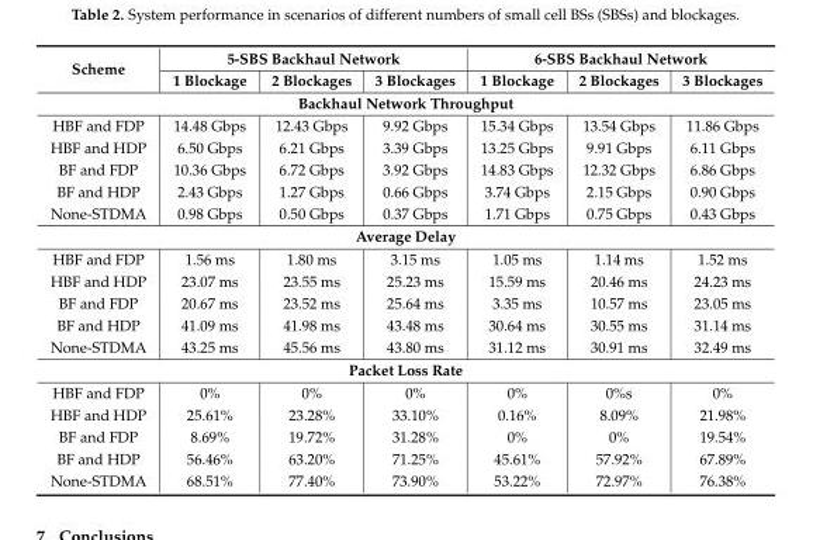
<table><thead><tr><td rowspan="2">Scheme</td><td colspan="3">5-SBS Backhaul Network</td><td colspan="3">6-SBS Backhaul Network</td></tr><tr><td>1 Blockage</td><td>2 Blockages</td><td>3 Blockages</td><td>1 Blockage</td><td>2 Blockages</td><td>3 Blockages</td></tr></thead><tbody><tr><td colspan="7">Backhaul Network Throughput</td></tr><tr><td>HBF and FDP</td><td>14.48 Gbps</td><td>12.43 Gbps</td><td>9.92 Gbps</td><td>15.34 Gbps</td><td>13.54 Gbps</td><td>11.86 Gbps</td></tr><tr><td>HBF and HDP</td><td>6.50 Gbps</td><td>6.21 Gbps</td><td>3.39 Gbps</td><td>13.25 Gbps</td><td>9.91 Gbps</td><td>6.11 Gbps</td></tr><tr><td>BF and FDP</td><td>10.36 Gbps</td><td>6.72 Gbps</td><td>3.92 Gbps</td><td>14.83 Gbps</td><td>12.32 Gbps</td><td>6.86 Gbps</td></tr><tr><td>BF and HDP</td><td>2.43 Gbps</td><td>1.27 Gbps</td><td>0.66 Gbps</td><td>3.74 Gbps</td><td>2.15 Gbps</td><td>0.90 Gbps</td></tr><tr><td>None-STDMA</td><td>0.98 Gbps</td><td>0.50 Gbps</td><td>0.37 Gbps</td><td>1.71 Gbps</td><td>0.75 Gbps</td><td>0.43 Gbps</td></tr><tr><td colspan="7">Average Delay</td></tr><tr><td>HBF and FDP</td><td>1.56 ms</td><td>1.80 ms</td><td>3.15 ms</td><td>1.05 ms</td><td>1.14 ms</td><td>1.52 ms</td></tr><tr><td>HBF and HDP</td><td>23.07 ms</td><td>23.55 ms</td><td>25.23 ms</td><td>15.59 ms</td><td>20.46 ms</td><td>24.23 ms</td></tr><tr><td>BF and FDP</td><td>20.67 ms</td><td>23.52 ms</td><td>25.64 ms</td><td>3.35 ms</td><td>10.57 ms</td><td>23.05 ms</td></tr><tr><td>BF and HDP</td><td>41.09 ms</td><td>41.98 ms</td><td>43.48 ms</td><td>30.64 ms</td><td>30.55 ms</td><td>31.14 ms</td></tr><tr><td>None-STDMA</td><td>43.25 ms</td><td>45.56 ms</td><td>43.80 ms</td><td>31.12 ms</td><td>30.91 ms</td><td>32.49 ms</td></tr><tr><td colspan="7">Packet Loss Rate</td></tr><tr><td>HBF and FDP</td><td>0%</td><td>0%</td><td>0%</td><td>0%</td><td>0%s</td><td>0%</td></tr><tr><td>HBF and HDP</td><td>25.61%</td><td>23.28%</td><td>33.10%</td><td>0.16%</td><td>8.09%</td><td>21.98%</td></tr><tr><td>BF and FDP</td><td>8.69%</td><td>19.72%</td><td>31.28%</td><td>0%</td><td>0%</td><td>19.54%</td></tr><tr><td>BF and HDP</td><td>56.46%</td><td>63.20%</td><td>71.25%</td><td>45.61%</td><td>57.92%</td><td>67.89%</td></tr><tr><td>None-STDMA</td><td>68.51%</td><td>77.40%</td><td>73.90%</td><td>53.22%</td><td>72.97%</td><td>76.38%</td></tr></tbody></table>